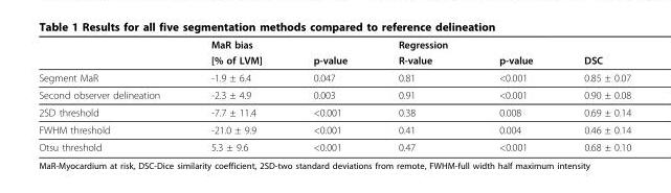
<table><thead><tr><td rowspan="2"></td><td rowspan="2">MaR bias [% of LVM]</td><td rowspan="2">p-value</td><td rowspan="2">Regression R-value</td><td rowspan="2">p-value</td><td rowspan="2">DSC</td></tr><tr></tr></thead><tbody><tr><td>Segment MaR</td><td>-1.9 ± 6.4</td><td>0.047</td><td>0.81</td><td>&lt;0.001</td><td>0.85 ± 0.07</td></tr><tr><td>Second observer delineation</td><td>-2.3 ± 4.9</td><td>0.003</td><td>0.91</td><td>&lt;0.001</td><td>0.90 ± 0.08</td></tr><tr><td>2SD threshold</td><td>-7.7 ± 11.4</td><td>&lt;0.001</td><td>0.38</td><td>0.008</td><td>0.69 ± 0.14</td></tr><tr><td>FWHM threshold</td><td>-21.0 ± 9.9</td><td>&lt;0.001</td><td>0.41</td><td>0.004</td><td>0.46 ± 0.14</td></tr><tr><td>Otsu threshold</td><td>5.3 ± 9.6</td><td>&lt;0.001</td><td>0.47</td><td>&lt;0.001</td><td>0.68 ± 0.10</td></tr></tbody></table>